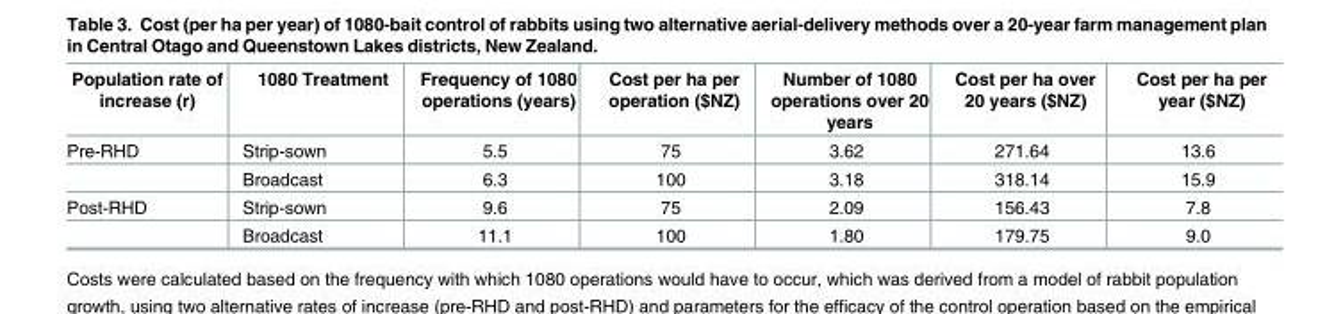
<table><thead><tr><td>Population rate of increase (r)</td><td>1080 Treatment</td><td>Frequency of 1080 operations (years)</td><td>Cost per ha per operation ($NZ)</td><td>Number of 1080 operations over 20 years</td><td>Cost per ha over 20 years ($NZ)</td><td>Cost per ha per year ($NZ)</td></tr></thead><tbody><tr><td rowspan="2">Pre-RHD</td><td>Strip-sown</td><td>5.5</td><td>75</td><td>3.62</td><td>271.64</td><td>13.6</td></tr><tr><td>Broadcast</td><td>6.3</td><td>100</td><td>3.18</td><td>318.14</td><td>15.9</td></tr><tr><td rowspan="2">Post-RHD</td><td>Strip-sown</td><td>9.6</td><td>75</td><td>2.09</td><td>156.43</td><td>7.8</td></tr><tr><td>Broadcast</td><td>11.1</td><td>100</td><td>1.80</td><td>179.75</td><td>9.0</td></tr></tbody></table>